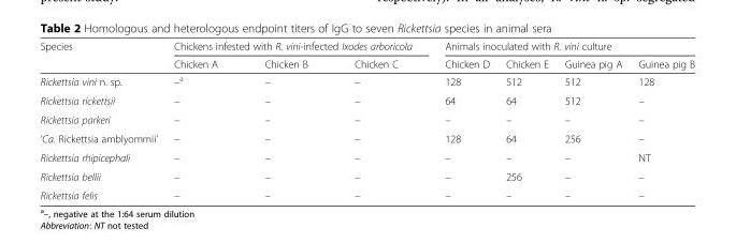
<table><thead><tr><td rowspan="2">Species</td><td colspan="3">Chickens infested with R. vini-infected Ixodes arboricola</td><td colspan="4">Animals inoculated with R. vini culture</td></tr><tr><td>Chicken A</td><td>Chicken B</td><td>Chicken C</td><td>Chicken D</td><td>Chicken E</td><td>Guinea pig A</td><td>Guinea pig B</td></tr></thead><tbody><tr><td>Rickettsia vini n. sp.</td><td>–<sup>a</sup></td><td>–</td><td>–</td><td>128</td><td>512</td><td>512</td><td>128</td></tr><tr><td>Rickettsia rickettsii</td><td>–</td><td>–</td><td>–</td><td>64</td><td>64</td><td>512</td><td>–</td></tr><tr><td>Rickettsia parkeri</td><td>–</td><td>–</td><td>–</td><td>–</td><td>–</td><td>–</td><td>–</td></tr><tr><td>‘Ca. Rickettsia amblyommii’</td><td>–</td><td>–</td><td>–</td><td>128</td><td>64</td><td>256</td><td>–</td></tr><tr><td>Rickettsia rhipicephali</td><td>–</td><td>–</td><td>–</td><td>–</td><td>–</td><td>–</td><td>NT</td></tr><tr><td>Rickettsia bellii</td><td>–</td><td>–</td><td>–</td><td>–</td><td>256</td><td>–</td><td>–</td></tr><tr><td>Rickettsia felis</td><td>–</td><td>–</td><td>–</td><td>–</td><td>–</td><td>–</td><td>–</td></tr></tbody></table>